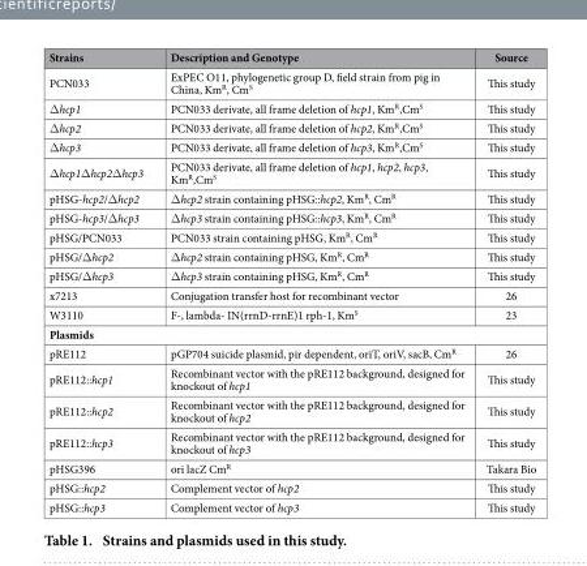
<table><thead><tr><td>Strains</td><td>Description and Genotype</td><td>Source</td></tr></thead><tbody><tr><td>PCN033</td><td>ExPEC O11, phylogenetic group D, field strain from pig in China, Km<sup>R</sup>, Cm<sup>S</sup></td><td>This study</td></tr><tr><td>Δ hcp1</td><td>PCN033 derivate, all frame deletion of hcp1, Km<sup>R</sup>,Cm<sup>S</sup></td><td>This study</td></tr><tr><td>Δ hcp2</td><td>PCN033 derivate, all frame deletion of hcp2, Km<sup>R</sup>,Cm<sup>S</sup></td><td>This study</td></tr><tr><td>Δ hcp3</td><td>PCN033 derivate, all frame deletion of hcp3, Km<sup>R</sup>,Cm<sup>S</sup></td><td>This study</td></tr><tr><td>Δ hcp1Δ hcp2Δ hcp3</td><td>PCN033 derivate, all frame deletion of hcp1, hcp2, hcp3, Km<sup>R</sup>,Cm<sup>S</sup></td><td>This study</td></tr><tr><td>pHSG-hcp2/Δ hcp2</td><td>Δ hcp2 strain containing pHSG::hcp2, Km<sup>R</sup>, Cm<sup>R</sup></td><td>This study</td></tr><tr><td>pHSG-hcp3/Δ hcp3</td><td>Δ hcp3 strain containing pHSG::hcp3, Km<sup>R</sup>, Cm<sup>R</sup></td><td>This study</td></tr><tr><td>pHSG/PCN033</td><td>PCN033 strain containing pHSG, Km<sup>R</sup>, Cm<sup>R</sup></td><td>This study</td></tr><tr><td>pHSG/Δ hcp2</td><td>Δ hcp2 strain containing pHSG, Km<sup>R</sup>, Cm<sup>R</sup></td><td>This study</td></tr><tr><td>pHSG/Δ hcp3</td><td>Δ hcp3 strain containing pHSG, Km<sup>R</sup>, Cm<sup>R</sup></td><td>This study</td></tr><tr><td>x7213</td><td>Conjugation transfer host for recombinant vector</td><td>26</td></tr><tr><td>W3110</td><td>F-, lambda- IN(rrnD-rrnE)1 rph-1, Km<sup>S</sup></td><td>23</td></tr><tr><td colspan="3">Plasmids</td></tr><tr><td>pRE112</td><td>pGP704 suicide plasmid, pir dependent, oriT, oriV, sacB, Cm<sup>R</sup></td><td>26</td></tr><tr><td>pRE112::hcp1</td><td>Recombinant vector with the pRE112 background, designed for knockout of hcp1</td><td>This study</td></tr><tr><td>pRE112::hcp2</td><td>Recombinant vector with the pRE112 background, designed for knockout of hcp2</td><td>This study</td></tr><tr><td>pRE112::hcp3</td><td>Recombinant vector with the pRE112 background, designed for knockout of hcp3</td><td>This study</td></tr><tr><td>pHSG396</td><td>ori lacZ Cm<sup>R</sup></td><td>Takara Bio</td></tr><tr><td>pHSG::hcp2</td><td>Complement vector of hcp2</td><td>This study</td></tr><tr><td>pHSG::hcp3</td><td>Complement vector of hcp3</td><td>This study</td></tr></tbody></table>